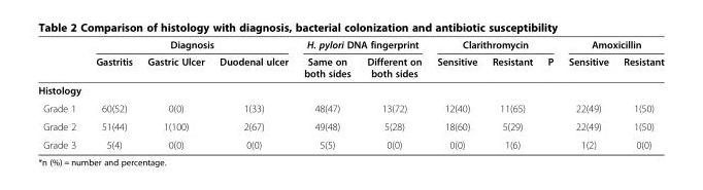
<table><thead><tr><td rowspan="2"></td><td colspan="3">Diagnosis</td><td colspan="2">H. pylori DNA fingerprint</td><td colspan="3">Clarithromycin</td><td colspan="2">Amoxicillin</td></tr><tr><td>Gastritis</td><td>Gastric Ulcer</td><td>Duodenal ulcer</td><td>Same on both sides</td><td>Different on both sides</td><td>Sensitive</td><td>Resistant</td><td>P</td><td>Sensitive</td><td>Resistant</td></tr></thead><tbody><tr><td colspan="11">Histology</td></tr><tr><td>Grade 1</td><td>60(52)</td><td>0(0)</td><td>1(33)</td><td>48(47)</td><td>13(72)</td><td>12(40)</td><td>11(65)</td><td></td><td>22(49)</td><td>1(50)</td></tr><tr><td>Grade 2</td><td>51(44)</td><td>1(100)</td><td>2(67)</td><td>49(48)</td><td>5(28)</td><td>18(60)</td><td>5(29)</td><td></td><td>22(49)</td><td>1(50)</td></tr><tr><td>Grade 3</td><td>5(4)</td><td>0(0)</td><td>0(0)</td><td>5(5)</td><td>0(0)</td><td>0(0)</td><td>1(6)</td><td></td><td>1(2)</td><td>0(0)</td></tr></tbody></table>